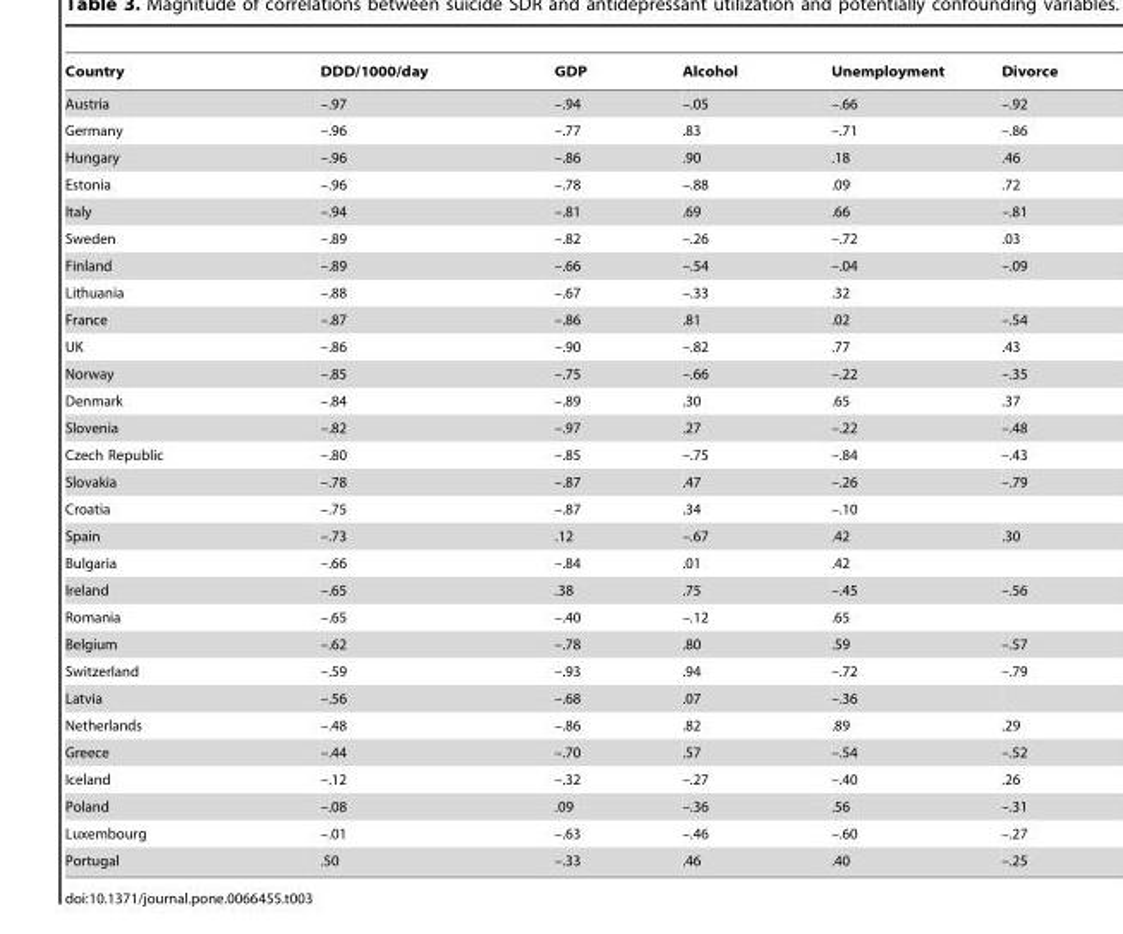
<table><thead><tr><td>Country</td><td>DDD/1000/day</td><td>GDP</td><td>Alcohol</td><td>Unemployment</td><td>Divorce</td></tr></thead><tbody><tr><td>Austria</td><td>–.97</td><td>–.94</td><td>–.05</td><td>–.66</td><td>–.92</td></tr><tr><td>Germany</td><td>–.96</td><td>–.77</td><td>.83</td><td>–.71</td><td>–.86</td></tr><tr><td>Hungary</td><td>–.96</td><td>–.86</td><td>.90</td><td>.18</td><td>.46</td></tr><tr><td>Estonia</td><td>–.96</td><td>–.78</td><td>–.88</td><td>.09</td><td>.72</td></tr><tr><td>Italy</td><td>–.94</td><td>–.81</td><td>.69</td><td>.66</td><td>–.81</td></tr><tr><td>Sweden</td><td>–.89</td><td>–.82</td><td>–.26</td><td>–.72</td><td>.03</td></tr><tr><td>Finland</td><td>–.89</td><td>–.66</td><td>–.54</td><td>–.04</td><td>–.09</td></tr><tr><td>Lithuania</td><td>–.88</td><td>–.67</td><td>–.33</td><td>.32</td><td></td></tr><tr><td>France</td><td>–.87</td><td>–.86</td><td>.81</td><td>.02</td><td>–.54</td></tr><tr><td>UK</td><td>–.86</td><td>–.90</td><td>–.82</td><td>.77</td><td>.43</td></tr><tr><td>Norway</td><td>–.85</td><td>–.75</td><td>–.66</td><td>–.22</td><td>–.35</td></tr><tr><td>Denmark</td><td>–.84</td><td>–.89</td><td>.30</td><td>.65</td><td>.37</td></tr><tr><td>Slovenia</td><td>–.82</td><td>–.97</td><td>.27</td><td>–.22</td><td>–.48</td></tr><tr><td>Czech Republic</td><td>–.80</td><td>–.85</td><td>–.75</td><td>–.84</td><td>–.43</td></tr><tr><td>Slovakia</td><td>–.78</td><td>–.87</td><td>.47</td><td>–.26</td><td>–.79</td></tr><tr><td>Croatia</td><td>–.75</td><td>–.87</td><td>.34</td><td>–.10</td><td></td></tr><tr><td>Spain</td><td>–.73</td><td>.12</td><td>–.67</td><td>.42</td><td>.30</td></tr><tr><td>Bulgaria</td><td>–.66</td><td>–.84</td><td>.01</td><td>.42</td><td></td></tr><tr><td>Ireland</td><td>–.65</td><td>.38</td><td>.75</td><td>–.45</td><td>–.56</td></tr><tr><td>Romania</td><td>–.65</td><td>–.40</td><td>–.12</td><td>.65</td><td></td></tr><tr><td>Belgium</td><td>–.62</td><td>–.78</td><td>.80</td><td>.59</td><td>–.57</td></tr><tr><td>Switzerland</td><td>–.59</td><td>–.93</td><td>.94</td><td>–.72</td><td>–.79</td></tr><tr><td>Latvia</td><td>–.56</td><td>–.68</td><td>.07</td><td>–.36</td><td></td></tr><tr><td>Netherlands</td><td>–.48</td><td>–.86</td><td>.82</td><td>.89</td><td>.29</td></tr><tr><td>Greece</td><td>–.44</td><td>–.70</td><td>.57</td><td>–.54</td><td>–.52</td></tr><tr><td>Iceland</td><td>–.12</td><td>–.32</td><td>–.27</td><td>–.40</td><td>.26</td></tr><tr><td>Poland</td><td>–.08</td><td>.09</td><td>–.36</td><td>.56</td><td>–.31</td></tr><tr><td>Luxembourg</td><td>–.01</td><td>–.63</td><td>–.46</td><td>–.60</td><td>–.27</td></tr><tr><td>Portugal</td><td>.50</td><td>–.33</td><td>.46</td><td>.40</td><td>–.25</td></tr></tbody></table>